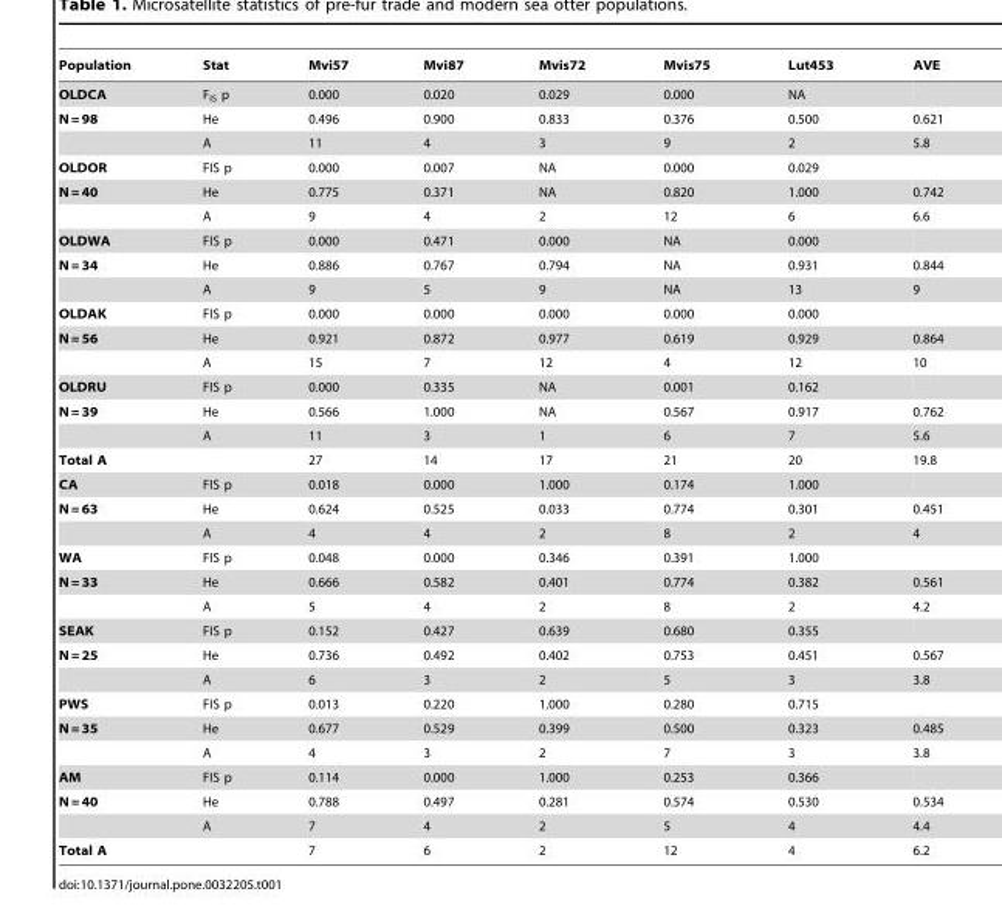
<table><thead><tr><td>Population</td><td>Stat</td><td>Mvi57</td><td>Mvi87</td><td>Mvis72</td><td>Mvis75</td><td>Lut453</td><td>AVE</td></tr></thead><tbody><tr><td>OLDCA</td><td>F<sub>IS</sub> p</td><td>0.000</td><td>0.020</td><td>0.029</td><td>0.000</td><td>NA</td><td></td></tr><tr><td rowspan="2">N = 98</td><td>He</td><td>0.496</td><td>0.900</td><td>0.833</td><td>0.376</td><td>0.500</td><td>0.621</td></tr><tr><td>A</td><td>11</td><td>4</td><td>3</td><td>9</td><td>2</td><td>5.8</td></tr><tr><td>OLDOR</td><td>FIS p</td><td>0.000</td><td>0.007</td><td>NA</td><td>0.000</td><td>0.029</td><td></td></tr><tr><td rowspan="2">N = 40</td><td>He</td><td>0.775</td><td>0.371</td><td>NA</td><td>0.820</td><td>1.000</td><td>0.742</td></tr><tr><td>A</td><td>9</td><td>4</td><td>2</td><td>12</td><td>6</td><td>6.6</td></tr><tr><td>OLDWA</td><td>FIS p</td><td>0.000</td><td>0.471</td><td>0.000</td><td>NA</td><td>0.000</td><td></td></tr><tr><td rowspan="2">N = 34</td><td>He</td><td>0.886</td><td>0.767</td><td>0.794</td><td>NA</td><td>0.931</td><td>0.844</td></tr><tr><td>A</td><td>9</td><td>5</td><td>9</td><td>NA</td><td>13</td><td>9</td></tr><tr><td>OLDAK</td><td>FIS p</td><td>0.000</td><td>0.000</td><td>0.000</td><td>0.000</td><td>0.000</td><td></td></tr><tr><td rowspan="2">N = 56</td><td>He</td><td>0.921</td><td>0.872</td><td>0.977</td><td>0.619</td><td>0.929</td><td>0.864</td></tr><tr><td>A</td><td>15</td><td>7</td><td>12</td><td>4</td><td>12</td><td>10</td></tr><tr><td>OLDRU</td><td>FIS p</td><td>0.000</td><td>0.335</td><td>NA</td><td>0.001</td><td>0.162</td><td></td></tr><tr><td rowspan="2">N = 39</td><td>He</td><td>0.566</td><td>1.000</td><td>NA</td><td>0.567</td><td>0.917</td><td>0.762</td></tr><tr><td>A</td><td>11</td><td>3</td><td>1</td><td>6</td><td>7</td><td>5.6</td></tr><tr><td>Total A</td><td></td><td>27</td><td>14</td><td>17</td><td>21</td><td>20</td><td>19.8</td></tr><tr><td>CA</td><td>FIS p</td><td>0.018</td><td>0.000</td><td>1.000</td><td>0.174</td><td>1.000</td><td></td></tr><tr><td rowspan="2">N = 63</td><td>He</td><td>0.624</td><td>0.525</td><td>0.033</td><td>0.774</td><td>0.301</td><td>0.451</td></tr><tr><td>A</td><td>4</td><td>4</td><td>2</td><td>8</td><td>2</td><td>4</td></tr><tr><td>WA</td><td>FIS p</td><td>0.048</td><td>0.000</td><td>0.346</td><td>0.391</td><td>1.000</td><td></td></tr><tr><td rowspan="2">N = 33</td><td>He</td><td>0.666</td><td>0.582</td><td>0.401</td><td>0.774</td><td>0.382</td><td>0.561</td></tr><tr><td>A</td><td>5</td><td>4</td><td>2</td><td>8</td><td>2</td><td>4.2</td></tr><tr><td>SEAK</td><td>FIS p</td><td>0.152</td><td>0.427</td><td>0.639</td><td>0.680</td><td>0.355</td><td></td></tr><tr><td rowspan="2">N = 25</td><td>He</td><td>0.736</td><td>0.492</td><td>0.402</td><td>0.753</td><td>0.451</td><td>0.567</td></tr><tr><td>A</td><td>6</td><td>3</td><td>2</td><td>5</td><td>3</td><td>3.8</td></tr><tr><td>PWS</td><td>FIS p</td><td>0.013</td><td>0.220</td><td>1.000</td><td>0.280</td><td>0.715</td><td></td></tr><tr><td rowspan="2">N = 35</td><td>He</td><td>0.677</td><td>0.529</td><td>0.399</td><td>0.500</td><td>0.323</td><td>0.485</td></tr><tr><td>A</td><td>4</td><td>3</td><td>2</td><td>7</td><td>3</td><td>3.8</td></tr><tr><td>AM</td><td>FIS p</td><td>0.114</td><td>0.000</td><td>1.000</td><td>0.253</td><td>0.366</td><td></td></tr><tr><td rowspan="2">N = 40</td><td>He</td><td>0.788</td><td>0.497</td><td>0.281</td><td>0.574</td><td>0.530</td><td>0.534</td></tr><tr><td>A</td><td>7</td><td>4</td><td>2</td><td>5</td><td>4</td><td>4.4</td></tr><tr><td>Total A</td><td></td><td>7</td><td>6</td><td>2</td><td>12</td><td>4</td><td>6.2</td></tr></tbody></table>